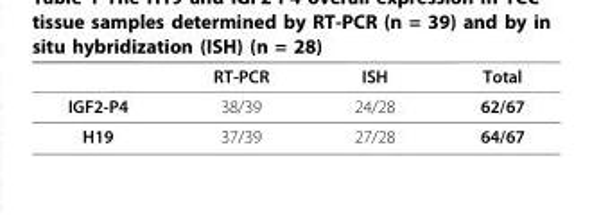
<table><thead><tr><td></td><td>RT-PCR</td><td>ISH</td><td>Total</td></tr></thead><tbody><tr><td>IGF2-P4</td><td>38/39</td><td>24/28</td><td>62/67</td></tr><tr><td>H19</td><td>37/39</td><td>27/28</td><td>64/67</td></tr></tbody></table>